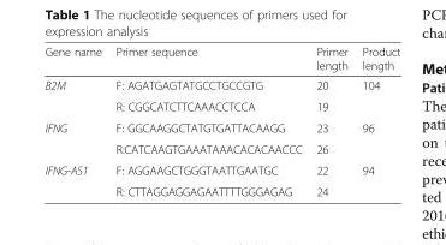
<table><thead><tr><td>Gene name</td><td>Primer sequence</td><td>Primer length</td><td>Product length</td></tr></thead><tbody><tr><td rowspan="2">B2M</td><td>F: AGATGAGTATGCCTGCCGTG</td><td>20</td><td rowspan="2">104</td></tr><tr><td>R: CGGCATCTTCAAACCTCCA</td><td>19</td></tr><tr><td rowspan="2">IFNG</td><td>F: GGCAAGGCTATGTGATTACAAGG</td><td>23</td><td rowspan="2">96</td></tr><tr><td>R:CATCAAGTGAAATAAACACACAACCC</td><td>26</td></tr><tr><td rowspan="2">IFNG-AS1</td><td>F: AGGAAGCTGGGTAATTGAATGC</td><td>22</td><td rowspan="2">94</td></tr><tr><td>R: CTTAGGAGGAGAATTTTGGGAGAG</td><td>24</td></tr></tbody></table>